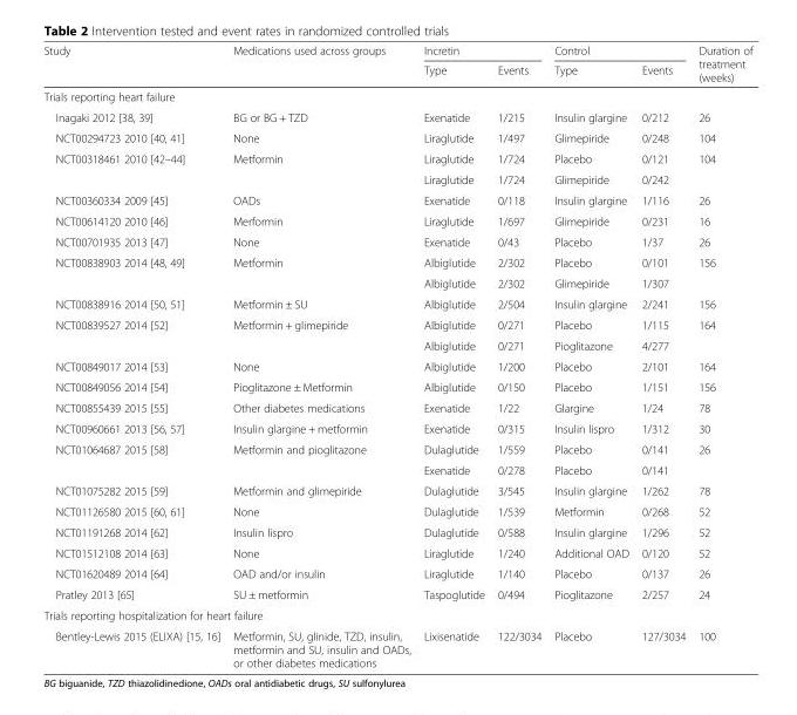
<table><thead><tr><td rowspan="2">Study</td><td rowspan="2">Medications used across groups</td><td colspan="2">Incretin</td><td colspan="2">Control</td><td rowspan="2">Duration of treatment (weeks)</td></tr><tr><td>Type</td><td>Events</td><td>Type</td><td>Events</td></tr></thead><tbody><tr><td colspan="7">Trials reporting heart failure</td></tr><tr><td>Inagaki 2012 [38, 39]</td><td>BG or BG + TZD</td><td>Exenatide</td><td>1/215</td><td>Insulin glargine</td><td>0/212</td><td>26</td></tr><tr><td>NCT00294723 2010 [40, 41]</td><td>None</td><td>Liraglutide</td><td>1/497</td><td>Glimepiride</td><td>0/248</td><td>104</td></tr><tr><td rowspan="2">NCT00318461 2010 [42–44]</td><td rowspan="2">Metformin</td><td>Liraglutide</td><td>1/724</td><td>Placebo</td><td>0/121</td><td rowspan="2">104</td></tr><tr><td>Liraglutide</td><td>1/724</td><td>Glimepiride</td><td>0/242</td></tr><tr><td>NCT00360334 2009 [45]</td><td>OADs</td><td>Exenatide</td><td>0/118</td><td>Insulin glargine</td><td>1/116</td><td>26</td></tr><tr><td>NCT00614120 2010 [46]</td><td>Merformin</td><td>Liraglutide</td><td>1/697</td><td>Glimepiride</td><td>0/231</td><td>16</td></tr><tr><td>NCT00701935 2013 [47]</td><td>None</td><td>Exenatide</td><td>0/43</td><td>Placebo</td><td>1/37</td><td>26</td></tr><tr><td rowspan="2">NCT00838903 2014 [48, 49]</td><td rowspan="2">Metformin</td><td>Albiglutide</td><td>2/302</td><td>Placebo</td><td>0/101</td><td rowspan="2">156</td></tr><tr><td>Albiglutide</td><td>2/302</td><td>Glimepiride</td><td>1/307</td></tr><tr><td>NCT00838916 2014 [50, 51]</td><td>Metformin ± SU</td><td>Albiglutide</td><td>2/504</td><td>Insulin glargine</td><td>2/241</td><td>156</td></tr><tr><td rowspan="2">NCT00839527 2014 [52]</td><td rowspan="2">Metformin + glimepiride</td><td>Albiglutide</td><td>0/271</td><td>Placebo</td><td>1/115</td><td rowspan="2">164</td></tr><tr><td>Albiglutide</td><td>0/271</td><td>Pioglitazone</td><td>4/277</td></tr><tr><td>NCT00849017 2014 [53]</td><td>None</td><td>Albiglutide</td><td>1/200</td><td>Placebo</td><td>2/101</td><td>164</td></tr><tr><td>NCT00849056 2014 [54]</td><td>Pioglitazone ± Metformin</td><td>Albiglutide</td><td>0/150</td><td>Placebo</td><td>1/151</td><td>156</td></tr><tr><td>NCT00855439 2015 [55]</td><td>Other diabetes medications</td><td>Exenatide</td><td>1/22</td><td>Glargine</td><td>1/24</td><td>78</td></tr><tr><td>NCT00960661 2013 [56, 57]</td><td>Insulin glargine + metformin</td><td>Exenatide</td><td>0/315</td><td>Insulin lispro</td><td>1/312</td><td>30</td></tr><tr><td rowspan="2">NCT01064687 2015 [58]</td><td rowspan="2">Metformin and pioglitazone</td><td>Dulaglutide</td><td>1/559</td><td>Placebo</td><td>0/141</td><td rowspan="2">26</td></tr><tr><td>Exenatide</td><td>0/278</td><td>Placebo</td><td>0/141</td></tr><tr><td>NCT01075282 2015 [59]</td><td>Metformin and glimepiride</td><td>Dulaglutide</td><td>3/545</td><td>Insulin glargine</td><td>1/262</td><td>78</td></tr><tr><td>NCT01126580 2015 [60, 61]</td><td>None</td><td>Dulaglutide</td><td>1/539</td><td>Metformin</td><td>0/268</td><td>52</td></tr><tr><td>NCT01191268 2014 [62]</td><td>Insulin lispro</td><td>Dulaglutide</td><td>0/588</td><td>Insulin glargine</td><td>1/296</td><td>52</td></tr><tr><td>NCT01512108 2014 [63]</td><td>None</td><td>Liraglutide</td><td>1/240</td><td>Additional OAD</td><td>0/120</td><td>52</td></tr><tr><td>NCT01620489 2014 [64]</td><td>OAD and/or insulin</td><td>Liraglutide</td><td>1/140</td><td>Placebo</td><td>0/137</td><td>26</td></tr><tr><td>Pratley 2013 [65]</td><td>SU ± metformin</td><td>Taspoglutide</td><td>0/494</td><td>Pioglitazone</td><td>2/257</td><td>24</td></tr><tr><td colspan="7">Trials reporting hospitalization for heart failure</td></tr><tr><td>Bentley-Lewis 2015 (ELIXA) [15, 16]</td><td>Metformin, SU, glinide, TZD, insulin, metformin and SU, insulin and OADs, or other diabetes medications</td><td>Lixisenatide</td><td>122/3034</td><td>Placebo</td><td>127/3034</td><td>100</td></tr></tbody></table>